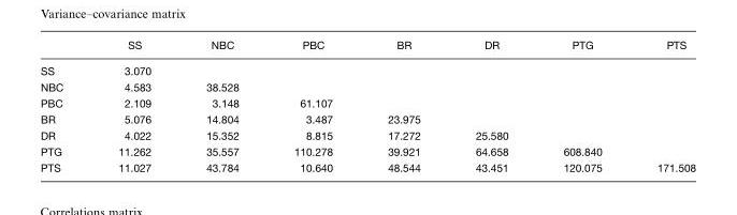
<table><thead><tr><td></td><td>SS</td><td>NBC</td><td>PBC</td><td>BR</td><td>DR</td><td>PTG</td><td>PTS</td></tr></thead><tbody><tr><td>SS</td><td>3.070</td><td></td><td></td><td></td><td></td><td></td><td></td></tr><tr><td>NBC</td><td>4.583</td><td>38.528</td><td></td><td></td><td></td><td></td><td></td></tr><tr><td>PBC</td><td>2.109</td><td>3.148</td><td>61.107</td><td></td><td></td><td></td><td></td></tr><tr><td>BR</td><td>5.076</td><td>14.804</td><td>3.487</td><td>23.975</td><td></td><td></td><td></td></tr><tr><td>DR</td><td>4.022</td><td>15.352</td><td>8.815</td><td>17.272</td><td>25.580</td><td></td><td></td></tr><tr><td>PTG</td><td>11.262</td><td>35.557</td><td>110.278</td><td>39.921</td><td>64.658</td><td>608.840</td><td></td></tr><tr><td>PTS</td><td>11.027</td><td>43.784</td><td>10.640</td><td>48.544</td><td>43.451</td><td>120.075</td><td>171.508</td></tr></tbody></table>